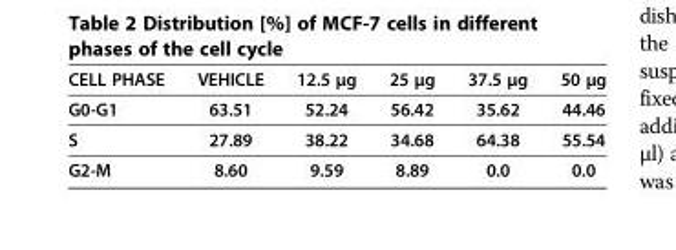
<table><thead><tr><td>CELL PHASE</td><td>VEHICLE</td><td>12.5 μg</td><td>25 μg</td><td>37.5 μg</td><td>50 μg</td></tr></thead><tbody><tr><td>G0-G1</td><td>63.51</td><td>52.24</td><td>56.42</td><td>35.62</td><td>44.46</td></tr><tr><td>S</td><td>27.89</td><td>38.22</td><td>34.68</td><td>64.38</td><td>55.54</td></tr><tr><td>G2-M</td><td>8.60</td><td>9.59</td><td>8.89</td><td>0.0</td><td>0.0</td></tr></tbody></table>